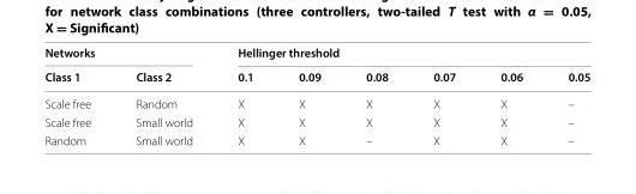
<table><thead><tr><td colspan="2">Networks</td><td colspan="6">Hellinger threshold</td></tr><tr><td>Class 1</td><td>Class 2</td><td>0.1</td><td>0.09</td><td>0.08</td><td>0.07</td><td>0.06</td><td>0.05</td></tr></thead><tbody><tr><td>Scale free</td><td>Random</td><td>X</td><td>X</td><td>X</td><td>X</td><td>X</td><td>–</td></tr><tr><td>Scale free</td><td>Small world</td><td>X</td><td>X</td><td>X</td><td>X</td><td>X</td><td>–</td></tr><tr><td>Random</td><td>Small world</td><td>X</td><td>X</td><td>–</td><td>X</td><td>X</td><td>–</td></tr></tbody></table>